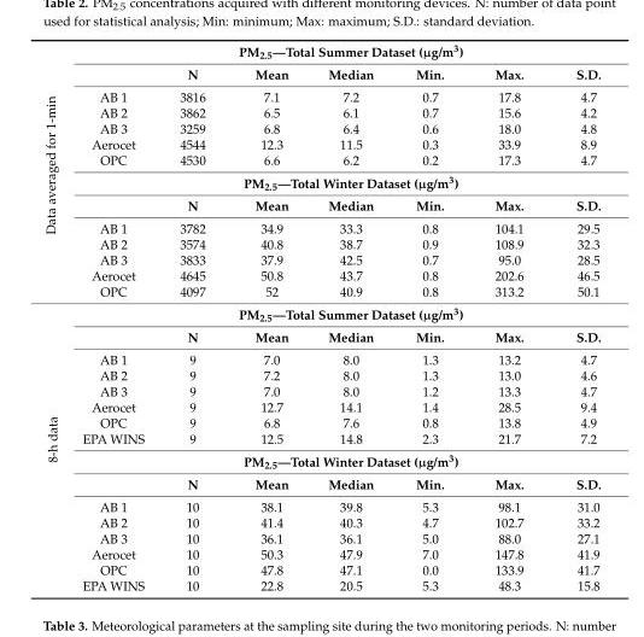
<table><tbody><tr><td rowspan="14">Data averaged for 1-min</td><td colspan="7">PM<sub>2.5</sub>—Total Summer Dataset (µg/m<sup>3</sup>)</td></tr><tr><td></td><td>N</td><td>Mean</td><td>Median</td><td>Min.</td><td>Max.</td><td>S.D.</td></tr><tr><td>AB 1</td><td>3816</td><td>7.1</td><td>7.2</td><td>0.7</td><td>17.8</td><td>4.7</td></tr><tr><td>AB 2</td><td>3862</td><td>6.5</td><td>6.1</td><td>0.7</td><td>15.6</td><td>4.2</td></tr><tr><td>AB 3</td><td>3259</td><td>6.8</td><td>6.4</td><td>0.6</td><td>18.0</td><td>4.8</td></tr><tr><td>Aerocet</td><td>4544</td><td>12.3</td><td>11.5</td><td>0.3</td><td>33.9</td><td>8.9</td></tr><tr><td>OPC</td><td>4530</td><td>6.6</td><td>6.2</td><td>0.2</td><td>17.3</td><td>4.7</td></tr><tr><td colspan="7">PM<sub>2.5</sub>—Total Winter Dataset (µg/m<sup>3</sup>)</td></tr><tr><td></td><td>N</td><td>Mean</td><td>Median</td><td>Min.</td><td>Max.</td><td>S.D.</td></tr><tr><td>AB 1</td><td>3782</td><td>34.9</td><td>33.3</td><td>0.8</td><td>104.1</td><td>29.5</td></tr><tr><td>AB 2</td><td>3574</td><td>40.8</td><td>38.7</td><td>0.9</td><td>108.9</td><td>32.3</td></tr><tr><td>AB 3</td><td>3833</td><td>37.9</td><td>42.5</td><td>0.7</td><td>95.0</td><td>28.5</td></tr><tr><td>Aerocet</td><td>4645</td><td>50.8</td><td>43.7</td><td>0.8</td><td>202.6</td><td>46.5</td></tr><tr><td>OPC</td><td>4097</td><td>52</td><td>40.9</td><td>0.8</td><td>313.2</td><td>50.1</td></tr><tr><td rowspan="16">8-h data</td><td colspan="7">PM<sub>2.5</sub>—Total Summer Dataset (µg/m<sup>3</sup>)</td></tr><tr><td></td><td>N</td><td>Mean</td><td>Median</td><td>Min.</td><td>Max.</td><td>S.D.</td></tr><tr><td>AB 1</td><td>9</td><td>7.0</td><td>8.0</td><td>1.3</td><td>13.2</td><td>4.7</td></tr><tr><td>AB 2</td><td>9</td><td>7.2</td><td>8.0</td><td>1.3</td><td>13.0</td><td>4.6</td></tr><tr><td>AB 3</td><td>9</td><td>7.0</td><td>8.0</td><td>1.2</td><td>13.3</td><td>4.7</td></tr><tr><td>Aerocet</td><td>9</td><td>12.7</td><td>14.1</td><td>1.4</td><td>28.5</td><td>9.4</td></tr><tr><td>OPC</td><td>9</td><td>6.8</td><td>7.6</td><td>0.8</td><td>13.8</td><td>4.9</td></tr><tr><td>EPA WINS</td><td>9</td><td>12.5</td><td>14.8</td><td>2.3</td><td>21.7</td><td>7.2</td></tr><tr><td colspan="7">PM<sub>2.5</sub>—Total Winter Dataset (µg/m<sup>3</sup>)</td></tr><tr><td></td><td>N</td><td>Mean</td><td>Median</td><td>Min.</td><td>Max.</td><td>S.D.</td></tr><tr><td>AB 1</td><td>10</td><td>38.1</td><td>39.8</td><td>5.3</td><td>98.1</td><td>31.0</td></tr><tr><td>AB 2</td><td>10</td><td>41.4</td><td>40.3</td><td>4.7</td><td>102.7</td><td>33.2</td></tr><tr><td>AB 3</td><td>10</td><td>36.1</td><td>36.1</td><td>5.0</td><td>88.0</td><td>27.1</td></tr><tr><td>Aerocet</td><td>10</td><td>50.3</td><td>47.9</td><td>7.0</td><td>147.8</td><td>41.9</td></tr><tr><td>OPC</td><td>10</td><td>47.8</td><td>47.1</td><td>0.0</td><td>133.9</td><td>41.7</td></tr><tr><td>EPA WINS</td><td>10</td><td>22.8</td><td>20.5</td><td>5.3</td><td>48.3</td><td>15.8</td></tr></tbody></table>